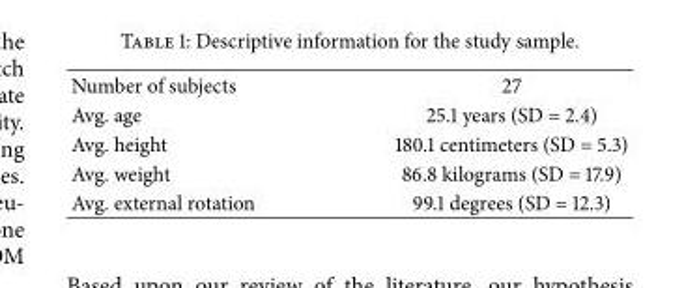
<table><tbody><tr><td>Number of subjects</td><td>27</td></tr><tr><td>Avg. age</td><td>25.1 years (SD = 2.4)</td></tr><tr><td>Avg. height</td><td>180.1 centimeters (SD = 5.3)</td></tr><tr><td>Avg. weight</td><td>86.8 kilograms (SD = 17.9)</td></tr><tr><td>Avg. external rotation</td><td>99.1 degrees (SD = 12.3)</td></tr></tbody></table>